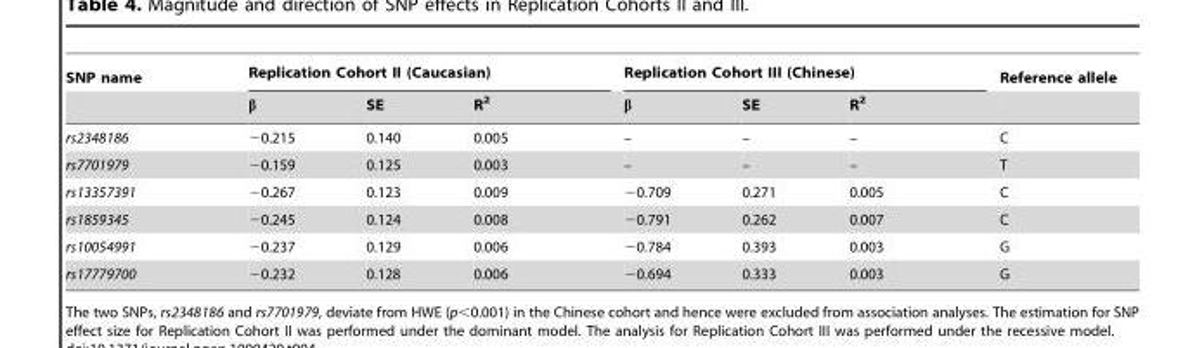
<table><thead><tr><td rowspan="2">SNP name</td><td colspan="3">Replication Cohort II (Caucasian)</td><td colspan="3">Replication Cohort III (Chinese)</td><td rowspan="2">Reference allele</td></tr><tr><td>β</td><td>SE</td><td>R<sup>2</sup></td><td>β</td><td>SE</td><td>R<sup>2</sup></td></tr></thead><tbody><tr><td>rs2348186</td><td>−0.215</td><td>0.140</td><td>0.005</td><td>–</td><td>–</td><td>–</td><td>C</td></tr><tr><td>rs7701979</td><td>−0.159</td><td>0.125</td><td>0.003</td><td>–</td><td>–</td><td>–</td><td>T</td></tr><tr><td>rs13357391</td><td>−0.267</td><td>0.123</td><td>0.009</td><td>−0.709</td><td>0.271</td><td>0.005</td><td>C</td></tr><tr><td>rs1859345</td><td>−0.245</td><td>0.124</td><td>0.008</td><td>−0.791</td><td>0.262</td><td>0.007</td><td>C</td></tr><tr><td>rs10054991</td><td>−0.237</td><td>0.129</td><td>0.006</td><td>−0.784</td><td>0.393</td><td>0.003</td><td>G</td></tr><tr><td>rs17779700</td><td>−0.232</td><td>0.128</td><td>0.006</td><td>−0.694</td><td>0.333</td><td>0.003</td><td>G</td></tr></tbody></table>